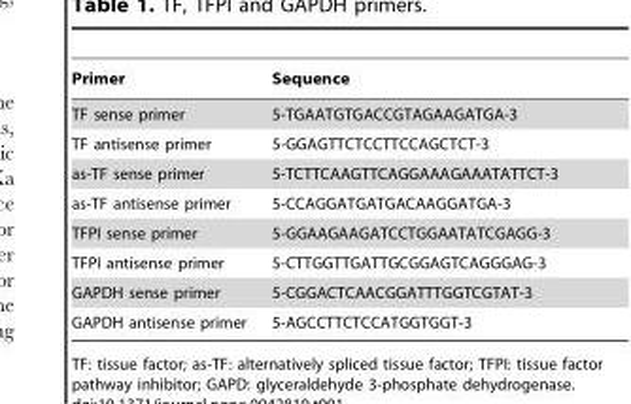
<table><thead><tr><td>Primer</td><td>Sequence</td></tr></thead><tbody><tr><td>TF sense primer</td><td>5-TGAATGTGACCGTAGAAGATGA-3</td></tr><tr><td>TF antisense primer</td><td>5-GGAGTTCTCCTTCCAGCTCT-3</td></tr><tr><td>as-TF sense primer</td><td>5-TCTTCAAGTTCAGGAAAGAAATATTCT-3</td></tr><tr><td>as-TF antisense primer</td><td>5-CCAGGATGATGACAAGGATGA-3</td></tr><tr><td>TFPI sense primer</td><td>5-GGAAGAAGATCCTGGAATATCGAGG-3</td></tr><tr><td>TFPI antisense primer</td><td>5-CTTGGTTGATTGCGGAGTCAGGGAG-3</td></tr><tr><td>GAPDH sense primer</td><td>5-CGGACTCAACGGATTTGGTCGTAT-3</td></tr><tr><td>GAPDH antisense primer</td><td>5-AGCCTTCTCCATGGTGGT-3</td></tr></tbody></table>